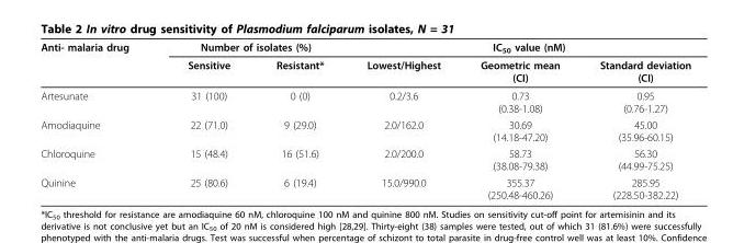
<table><thead><tr><td rowspan="2">Anti- malaria drug</td><td colspan="2">Number of isolates (%)</td><td colspan="3">IC<sub>50</sub> value (nM)</td></tr><tr><td>Sensitive</td><td>Resistant*</td><td>Lowest/Highest</td><td>Geometric mean (CI)</td><td>Standard deviation (CI)</td></tr></thead><tbody><tr><td>Artesunate</td><td>31 (100)</td><td>0 (0)</td><td>0.2/3.6</td><td>0.73 (0.38-1.08)</td><td>0.95 (0.76-1.27)</td></tr><tr><td>Amodiaquine</td><td>22 (71.0)</td><td>9 (29.0)</td><td>2.0/162.0</td><td>30.69 (14.18-47.20)</td><td>45.00 (35.96-60.15)</td></tr><tr><td>Chloroquine</td><td>15 (48.4)</td><td>16 (51.6)</td><td>2.0/200.0</td><td>58.73 (38.08-79.38)</td><td>56.30 (44.99-75.25)</td></tr><tr><td>Quinine</td><td>25 (80.6)</td><td>6 (19.4)</td><td>15.0/990.0</td><td>355.37 (250.48-460.26)</td><td>285.95 (228.50-382.22)</td></tr></tbody></table>